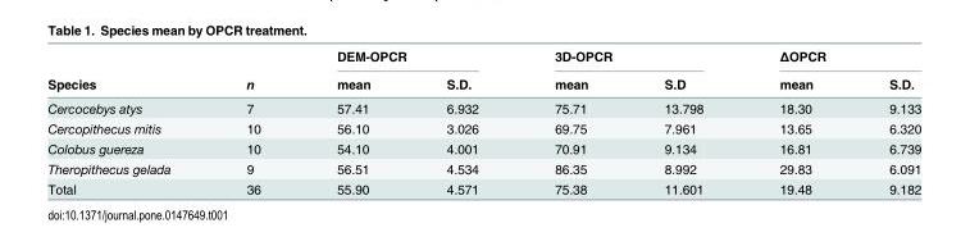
<table><thead><tr><td rowspan="2">Species</td><td rowspan="2">n</td><td colspan="2">DEM-OPCR</td><td colspan="2">3D-OPCR</td><td colspan="2">ΔOPCR</td></tr><tr><td>mean</td><td>S.D.</td><td>mean</td><td>S.D</td><td>mean</td><td>S.D.</td></tr></thead><tbody><tr><td>Cercocebys atys</td><td>7</td><td>57.41</td><td>6.932</td><td>75.71</td><td>13.798</td><td>18.30</td><td>9.133</td></tr><tr><td>Cercopithecus mitis</td><td>10</td><td>56.10</td><td>3.026</td><td>69.75</td><td>7.961</td><td>13.65</td><td>6.320</td></tr><tr><td>Colobus guereza</td><td>10</td><td>54.10</td><td>4.001</td><td>70.91</td><td>9.134</td><td>16.81</td><td>6.739</td></tr><tr><td>Theropithecus gelada</td><td>9</td><td>56.51</td><td>4.534</td><td>86.35</td><td>8.992</td><td>29.83</td><td>6.091</td></tr><tr><td>Total</td><td>36</td><td>55.90</td><td>4.571</td><td>75.38</td><td>11.601</td><td>19.48</td><td>9.182</td></tr></tbody></table>